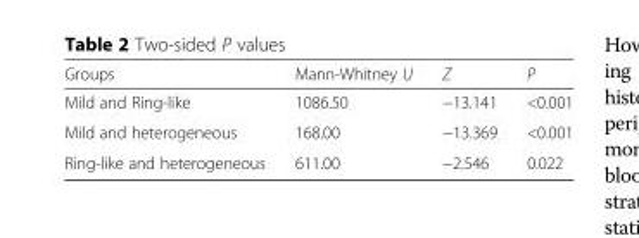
<table><thead><tr><td>Groups</td><td>Mann-Whitney U</td><td>Z</td><td>P</td></tr></thead><tbody><tr><td>Mild and Ring-like</td><td>1086.50</td><td>−13.141</td><td>&lt;0.001</td></tr><tr><td>Mild and heterogeneous</td><td>168.00</td><td>−13.369</td><td>&lt;0.001</td></tr><tr><td>Ring-like and heterogeneous</td><td>611.00</td><td>−2.546</td><td>0.022</td></tr></tbody></table>